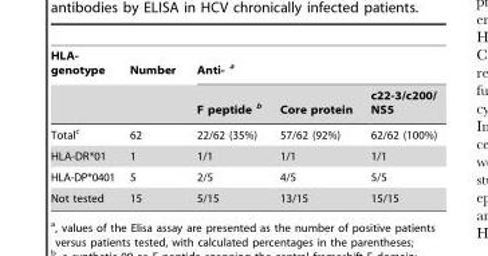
<table><thead><tr><td rowspan="2">HLA- genotype</td><td rowspan="2">Number</td><td colspan="3">Anti- a</td></tr><tr><td>F peptide b</td><td>Core protein</td><td>c22-3/c200/ NS5</td></tr></thead><tbody><tr><td>Total<sup>c</sup></td><td>62</td><td>22/62 (35%)</td><td>57/62 (92%)</td><td>62/62 (100%)</td></tr><tr><td>HLA-DR*01</td><td>1</td><td>1/1</td><td>1/1</td><td>1/1</td></tr><tr><td>HLA-DP*0401</td><td>5</td><td>2/5</td><td>4/5</td><td>5/5</td></tr><tr><td>Not tested</td><td>15</td><td>5/15</td><td>13/15</td><td>15/15</td></tr></tbody></table>